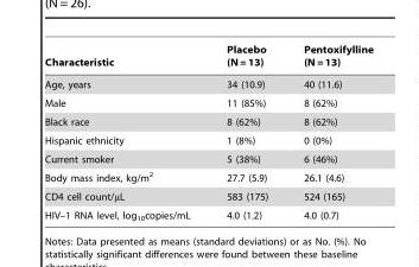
<table><thead><tr><td>Characteristic</td><td>Placebo (N = 13)</td><td>Pentoxifylline (N = 13)</td></tr></thead><tbody><tr><td>Age, years</td><td>34 (10.9)</td><td>40 (11.6)</td></tr><tr><td>Male</td><td>11 (85%)</td><td>8 (62%)</td></tr><tr><td>Black race</td><td>8 (62%)</td><td>8 (62%)</td></tr><tr><td>Hispanic ethnicity</td><td>1 (8%)</td><td>0 (0%)</td></tr><tr><td>Current smoker</td><td>5 (38%)</td><td>6 (46%)</td></tr><tr><td>Body mass index, kg/m<sup>2</sup></td><td>27.7 (5.9)</td><td>26.1 (4.6)</td></tr><tr><td>CD4 cell count/µL</td><td>583 (175)</td><td>524 (165)</td></tr><tr><td>HIV–1 RNA level, log<sub>10</sub>copies/mL</td><td>4.0 (1.2)</td><td>4.0 (0.7)</td></tr></tbody></table>